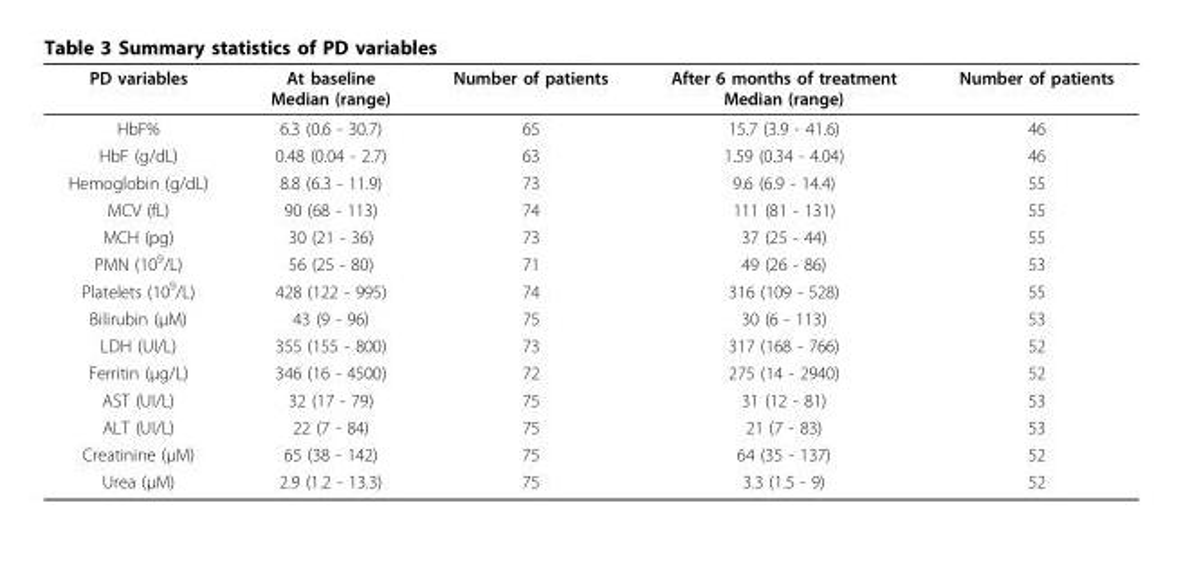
<table><thead><tr><td>PD variables</td><td>At baseline Median (range)</td><td>Number of patients</td><td>After 6 months of treatment Median (range)</td><td>Number of patients</td></tr></thead><tbody><tr><td>HbF%</td><td>6.3 (0.6 - 30.7)</td><td>65</td><td>15.7 (3.9 - 41.6)</td><td>46</td></tr><tr><td>HbF (g/dL)</td><td>0.48 (0.04 - 2.7)</td><td>63</td><td>1.59 (0.34 - 4.04)</td><td>46</td></tr><tr><td>Hemoglobin (g/dL)</td><td>8.8 (6.3 - 11.9)</td><td>73</td><td>9.6 (6.9 - 14.4)</td><td>55</td></tr><tr><td>MCV (fL)</td><td>90 (68 - 113)</td><td>74</td><td>111 (81 - 131)</td><td>55</td></tr><tr><td>MCH (pg)</td><td>30 (21 - 36)</td><td>73</td><td>37 (25 - 44)</td><td>55</td></tr><tr><td>PMN (10<sup>9</sup>/L)</td><td>56 (25 - 80)</td><td>71</td><td>49 (26 - 86)</td><td>53</td></tr><tr><td>Platelets (10<sup>9</sup>/L)</td><td>428 (122 - 995)</td><td>74</td><td>316 (109 - 528)</td><td>55</td></tr><tr><td>Bilirubin (μM)</td><td>43 (9 - 96)</td><td>75</td><td>30 (6 - 113)</td><td>53</td></tr><tr><td>LDH (UI/L)</td><td>355 (155 - 800)</td><td>73</td><td>317 (168 - 766)</td><td>52</td></tr><tr><td>Ferritin (μg/L)</td><td>346 (16 - 4500)</td><td>72</td><td>275 (14 - 2940)</td><td>52</td></tr><tr><td>AST (UI/L)</td><td>32 (17 - 79)</td><td>75</td><td>31 (12 - 81)</td><td>53</td></tr><tr><td>ALT (UI/L)</td><td>22 (7 - 84)</td><td>75</td><td>21 (7 - 83)</td><td>53</td></tr><tr><td>Creatinine (μM)</td><td>65 (38 - 142)</td><td>75</td><td>64 (35 - 137)</td><td>52</td></tr><tr><td>Urea (μM)</td><td>2.9 (1.2 - 13.3)</td><td>75</td><td>3.3 (1.5 - 9)</td><td>52</td></tr></tbody></table>